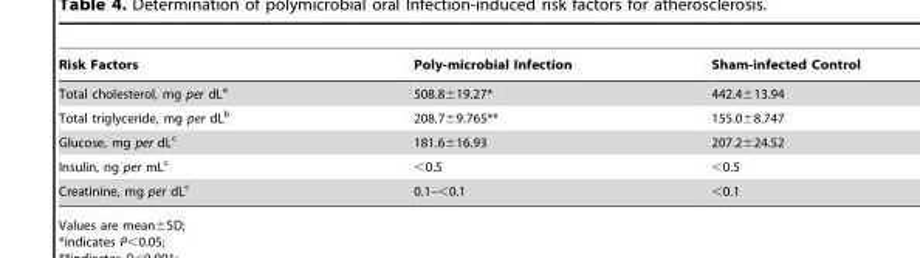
<table><thead><tr><td>Risk Factors</td><td>Poly-microbial Infection</td><td>Sham-infected Control</td></tr></thead><tbody><tr><td>Total cholesterol, mg per dL<sup>a</sup></td><td>508.8±19.27*</td><td>442.4±13.94</td></tr><tr><td>Total triglyceride, mg per dL<sup>b</sup></td><td>208.7±9.765**</td><td>155.0±8.747</td></tr><tr><td>Glucose, mg per dL<sup>c</sup></td><td>181.6±16.93</td><td>207.2±24.52</td></tr><tr><td>Insulin, ng per mL<sup>c</sup></td><td>&lt;0.5</td><td>&lt;0.5</td></tr><tr><td>Creatinine, mg per dL<sup>c</sup></td><td>0.1–&lt;0.1</td><td>&lt;0.1</td></tr></tbody></table>